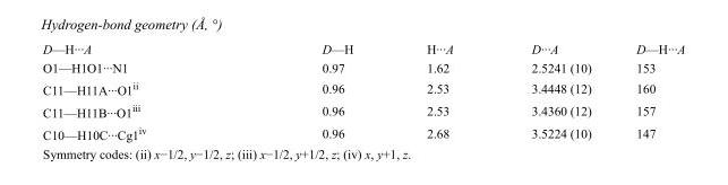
<table><tbody><tr><td>D—H···A</td><td>D—H</td><td>H···A</td><td>D···A</td><td>D—H···A</td></tr><tr><td>O1—H1O1···N1</td><td>0.97</td><td>1.62</td><td>2.5241 (10)</td><td>153</td></tr><tr><td>C11—H11A···O1<sup>ii</sup></td><td>0.96</td><td>2.53</td><td>3.4448 (12)</td><td>160</td></tr><tr><td>C11—H11B···O1<sup>iii</sup></td><td>0.96</td><td>2.53</td><td>3.4360 (12)</td><td>157</td></tr><tr><td>C10—H10C···Cg1<sup>iv</sup></td><td>0.96</td><td>2.68</td><td>3.5224 (10)</td><td>147</td></tr></tbody></table>